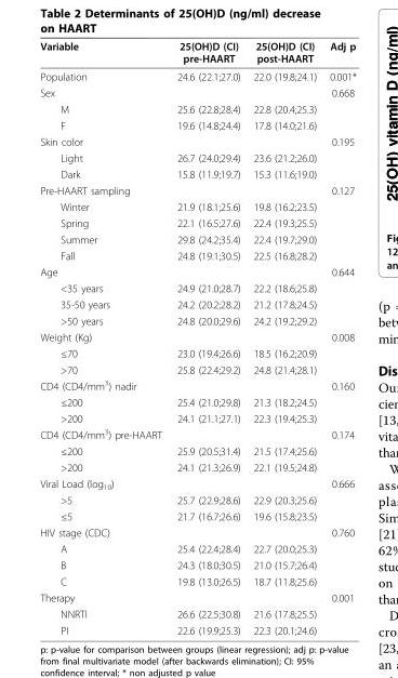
<table><thead><tr><td>Variable</td><td>25(OH)D (CI) pre-HAART</td><td>25(OH)D (CI) post-HAART</td><td>Adj p</td></tr></thead><tbody><tr><td>Population</td><td>24.6 (22.1;27.0)</td><td>22.0 (19.8;24.1)</td><td>0.001*</td></tr><tr><td>Sex</td><td></td><td></td><td>0.668</td></tr><tr><td>M</td><td>25.6 (22.8;28.4)</td><td>22.8 (20.4;25.3)</td><td></td></tr><tr><td>F</td><td>19.6 (14.8;24.4)</td><td>17.8 (14.0;21.6)</td><td></td></tr><tr><td>Skin color</td><td></td><td></td><td>0.195</td></tr><tr><td>Light</td><td>26.7 (24.0;29.4)</td><td>23.6 (21.2;26.0)</td><td></td></tr><tr><td>Dark</td><td>15.8 (11.9;19.7)</td><td>15.3 (11.6;19.0)</td><td></td></tr><tr><td>Pre-HAART sampling</td><td></td><td></td><td>0.127</td></tr><tr><td>Winter</td><td>21.9 (18.1;25.6)</td><td>19.8 (16.2;23.5)</td><td></td></tr><tr><td>Spring</td><td>22.1 (16.5;27.6)</td><td>22.4 (19.3;25.5)</td><td></td></tr><tr><td>Summer</td><td>29.8 (24.2;35.4)</td><td>22.4 (19.7;29.0)</td><td></td></tr><tr><td>Fall</td><td>24.8 (19.1;30.5)</td><td>22.5 (16.8;28.2)</td><td></td></tr><tr><td>Age</td><td></td><td></td><td>0.644</td></tr><tr><td>&lt;35 years</td><td>24.9 (21.0;28.7)</td><td>22.2 (18.6;25.8)</td><td></td></tr><tr><td>35-50 years</td><td>24.2 (20.2;28.2)</td><td>21.2 (17.8;24.5)</td><td></td></tr><tr><td>&gt;50 years</td><td>24.8 (20.0;29.6)</td><td>24.2 (19.2;29.2)</td><td></td></tr><tr><td>Weight (Kg)</td><td></td><td></td><td>0.008</td></tr><tr><td>≤70</td><td>23.0 (19.4;26.6)</td><td>18.5 (16.2;20.9)</td><td></td></tr><tr><td>&gt;70</td><td>25.8 (22.4;29.2)</td><td>24.8 (21.4;28.1)</td><td></td></tr><tr><td>CD4 (CD4/mm<sup>3</sup>) nadir</td><td></td><td></td><td>0.160</td></tr><tr><td>≤200</td><td>25.4 (21.0;29.8)</td><td>21.3 (18.2;24.5)</td><td></td></tr><tr><td>&gt;200</td><td>24.1 (21.1;27.1)</td><td>22.3 (19.4;25.3)</td><td></td></tr><tr><td>CD4 (CD4/mm<sup>3</sup>) pre-HAART</td><td></td><td></td><td>0.174</td></tr><tr><td>≤200</td><td>25.9 (20.5;31.4)</td><td>21.5 (17.4;25.6)</td><td></td></tr><tr><td>&gt;200</td><td>24.1 (21.3;26.9)</td><td>22.1 (19.5;24.8)</td><td></td></tr><tr><td>Viral Load (log<sub>10</sub>)</td><td></td><td></td><td>0.666</td></tr><tr><td>&gt;5</td><td>25.7 (22.9;28.6)</td><td>22.9 (20.3;25.6)</td><td></td></tr><tr><td>≤5</td><td>21.7 (16.7;26.6)</td><td>19.6 (15.8;23.5)</td><td></td></tr><tr><td>HIV stage (CDC)</td><td></td><td></td><td>0.760</td></tr><tr><td>A</td><td>25.4 (22.4;28.4)</td><td>22.7 (20.0;25.3)</td><td></td></tr><tr><td>B</td><td>24.3 (18.0;30.5)</td><td>21.0 (15.7;26.4)</td><td></td></tr><tr><td>C</td><td>19.8 (13.0;26.5)</td><td>18.7 (11.8;25.6)</td><td></td></tr><tr><td>Therapy</td><td></td><td></td><td>0.001</td></tr><tr><td>NNRTI</td><td>26.6 (22.5;30.8)</td><td>21.6 (17.8;25.5)</td><td></td></tr><tr><td>PI</td><td>22.6 (19.9;25.3)</td><td>22.3 (20.1;24.6)</td><td></td></tr></tbody></table>